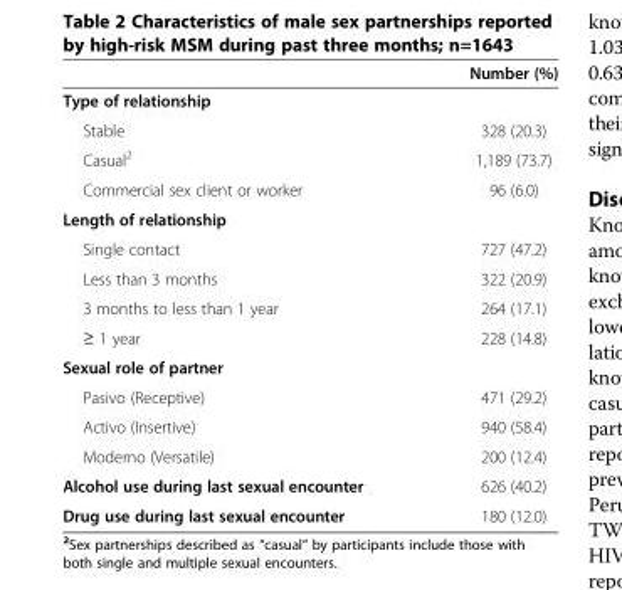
<table><thead><tr><td></td><td>Number (%)</td></tr></thead><tbody><tr><td colspan="2">Type of relationship</td></tr><tr><td>Stable</td><td>328 (20.3)</td></tr><tr><td>Casual<sup>2</sup></td><td>1,189 (73.7)</td></tr><tr><td>Commercial sex client or worker</td><td>96 (6.0)</td></tr><tr><td colspan="2">Length of relationship</td></tr><tr><td>Single contact</td><td>727 (47.2)</td></tr><tr><td>Less than 3 months</td><td>322 (20.9)</td></tr><tr><td>3 months to less than 1 year</td><td>264 (17.1)</td></tr><tr><td>≥ 1 year</td><td>228 (14.8)</td></tr><tr><td colspan="2">Sexual role of partner</td></tr><tr><td>Pasivo (Receptive)</td><td>471 (29.2)</td></tr><tr><td>Activo (Insertive)</td><td>940 (58.4)</td></tr><tr><td>Moderno (Versatile)</td><td>200 (12.4)</td></tr><tr><td>Alcohol use during last sexual encounter</td><td>626 (40.2)</td></tr><tr><td>Drug use during last sexual encounter</td><td>180 (12.0)</td></tr></tbody></table>